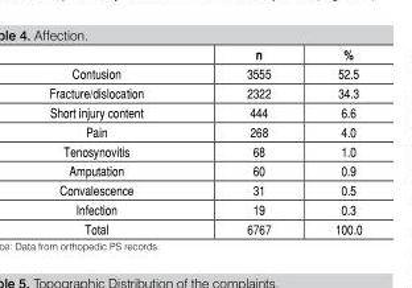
<table><thead><tr><td></td><td>n</td><td>%</td></tr></thead><tbody><tr><td>Contusion</td><td>3555</td><td>52.5</td></tr><tr><td>Fracture/dislocation</td><td>2322</td><td>34.3</td></tr><tr><td>Short injury content</td><td>444</td><td>6.6</td></tr><tr><td>Pain</td><td>268</td><td>4.0</td></tr><tr><td>Tenosynovitis</td><td>68</td><td>1.0</td></tr><tr><td>Amputation</td><td>60</td><td>0.9</td></tr><tr><td>Convalescence</td><td>31</td><td>0.5</td></tr><tr><td>Infection</td><td>19</td><td>0.3</td></tr><tr><td>Total</td><td>6767</td><td>100.0</td></tr></tbody></table>